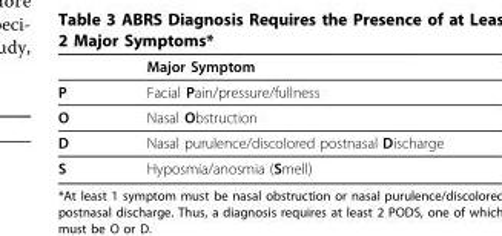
<table><thead><tr><td></td><td>Major Symptom</td></tr></thead><tbody><tr><td>P</td><td>Facial Pain/pressure/fullness</td></tr><tr><td>O</td><td>Nasal Obstruction</td></tr><tr><td>D</td><td>Nasal purulence/discolored postnasal Discharge</td></tr><tr><td>S</td><td>Hyposmia/anosmia (Smell)</td></tr></tbody></table>